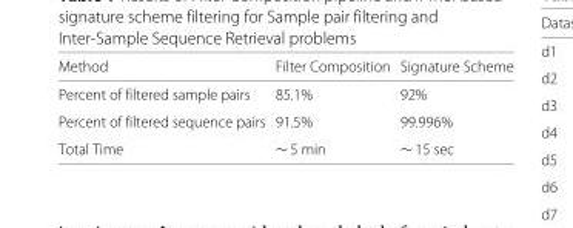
<table><thead><tr><td>Method</td><td>Filter Composition</td><td>Signature Scheme</td></tr></thead><tbody><tr><td>Percent of filtered sample pairs</td><td>85.1%</td><td>92%</td></tr><tr><td>Percent of filtered sequence pairs</td><td>91.5%</td><td>99.996%</td></tr><tr><td>Total Time</td><td>∼ 5 min</td><td>∼ 15 sec</td></tr></tbody></table>